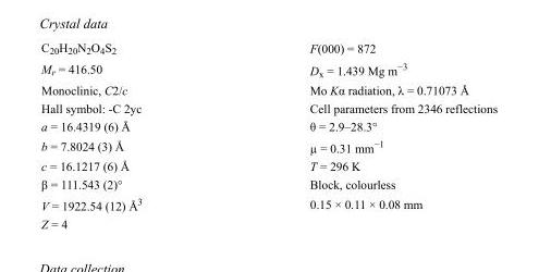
<table><tbody><tr><td>C<sub>20</sub>H<sub>20</sub>N<sub>2</sub>O<sub>4</sub>S<sub>2</sub></td><td>F(000) = 872</td></tr><tr><td>M<sub>r</sub> = 416.50</td><td>D<sub>x</sub> = 1.439 Mg m<sup>−3</sup></td></tr><tr><td>Monoclinic, C2/c</td><td>Mo Kα radiation, λ = 0.71073 Å</td></tr><tr><td>Hall symbol: -C 2yc</td><td>Cell parameters from 2346 reflections</td></tr><tr><td>a = 16.4319 (6) Å</td><td>θ = 2.9–28.3°</td></tr><tr><td>b = 7.8024 (3) Å</td><td>µ = 0.31 mm<sup>−1</sup></td></tr><tr><td>c = 16.1217 (6) Å</td><td>T = 296 K</td></tr><tr><td>β = 111.543 (2)°</td><td>Block, colourless</td></tr><tr><td>V = 1922.54 (12) Å<sup>3</sup></td><td>0.15 × 0.11 × 0.08 mm</td></tr><tr><td>Z = 4</td><td></td></tr></tbody></table>